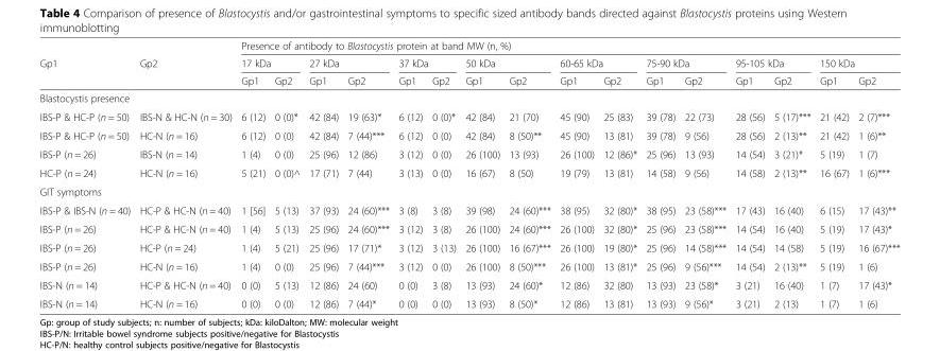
<table><thead><tr><td rowspan="3">Gp1</td><td rowspan="3">Gp2</td><td colspan="16">Presence of antibody to Blastocystis protein at band MW (n, %)</td></tr><tr><td colspan="2">17 kDa</td><td colspan="2">27 kDa</td><td colspan="2">37 kDa</td><td colspan="2">50 kDa</td><td colspan="2">60-65 kDa</td><td colspan="2">75-90 kDa</td><td colspan="2">95-105 kDa</td><td colspan="2">150 kDa</td></tr><tr><td>Gp1</td><td>Gp2</td><td>Gp1</td><td>Gp2</td><td>Gp1</td><td>Gp2</td><td>Gp1</td><td>Gp2</td><td>Gp1</td><td>Gp2</td><td>Gp1</td><td>Gp2</td><td>Gp1</td><td>Gp2</td><td>Gp1</td><td>Gp2</td></tr></thead><tbody><tr><td colspan="18">Blastocystis presence</td></tr><tr><td>IBS-P &amp; HC-P (n = 50)</td><td>IBS-N &amp; HC-N (n = 30)</td><td>6 (12)</td><td>0 (0)*</td><td>42 (84)</td><td>19 (63)*</td><td>6 (12)</td><td>0 (0)*</td><td>42 (84)</td><td>21 (70)</td><td>45 (90)</td><td>25 (83)</td><td>39 (78)</td><td>22 (73)</td><td>28 (56)</td><td>5 (17)***</td><td>21 (42)</td><td>2 (7)***</td></tr><tr><td>IBS-P &amp; HC-P (n = 50)</td><td>HC-N (n = 16)</td><td>6 (12)</td><td>0 (0)</td><td>42 (84)</td><td>7 (44)***</td><td>6 (12)</td><td>0 (0)</td><td>42 (84)</td><td>8 (50)**</td><td>45 (90)</td><td>13 (81)</td><td>39 (78)</td><td>9 (56)</td><td>28 (56)</td><td>2 (13)**</td><td>21 (42)</td><td>1 (6)**</td></tr><tr><td>IBS-P (n = 26)</td><td>IBS-N (n = 14)</td><td>1 (4)</td><td>0 (0)</td><td>25 (96)</td><td>12 (86)</td><td>3 (12)</td><td>0 (0)</td><td>26 (100)</td><td>13 (93)</td><td>26 (100)</td><td>12 (86)*</td><td>25 (96)</td><td>13 (93)</td><td>14 (54)</td><td>3 (21)*</td><td>5 (19)</td><td>1 (7)</td></tr><tr><td>HC-P (n = 24)</td><td>HC-N (n = 16)</td><td>5 (21)</td><td>0 (0)^</td><td>17 (71)</td><td>7 (44)</td><td>3 (13)</td><td>0 (0)</td><td>16 (67)</td><td>8 (50)</td><td>19 (79)</td><td>13 (81)</td><td>14 (58)</td><td>9 (56)</td><td>14 (58)</td><td>2 (13)**</td><td>16 (67)</td><td>1 (6)***</td></tr><tr><td colspan="18">GIT symptoms</td></tr><tr><td>IBS-P &amp; IBS-N (n = 40)</td><td>HC-P &amp; HC-N (n = 40)</td><td>1 [56]</td><td>5 (13)</td><td>37 (93)</td><td>24 (60)***</td><td>3 (8)</td><td>3 (8)</td><td>39 (98)</td><td>24 (60)***</td><td>38 (95)</td><td>32 (80)*</td><td>38 (95)</td><td>23 (58)***</td><td>17 (43)</td><td>16 (40)</td><td>6 (15)</td><td>17 (43)**</td></tr><tr><td>IBS-P (n = 26)</td><td>HC-P &amp; HC-N (n = 40)</td><td>1 (4)</td><td>5 (13)</td><td>25 (96)</td><td>24 (60)***</td><td>3 (12)</td><td>3 (8)</td><td>26 (100)</td><td>24 (60)***</td><td>26 (100)</td><td>32 (80)*</td><td>25 (96)</td><td>23 (58)***</td><td>14 (54)</td><td>16 (40)</td><td>5 (19)</td><td>17 (43)*</td></tr><tr><td>IBS-P (n = 26)</td><td>HC-P (n = 24)</td><td>1 (4)</td><td>5 (21)</td><td>25 (96)</td><td>17 (71)*</td><td>3 (12)</td><td>3 (13)</td><td>26 (100)</td><td>16 (67)***</td><td>26 (100)</td><td>19 (80)*</td><td>25 (96)</td><td>14 (58)***</td><td>14 (54)</td><td>14 (58)</td><td>5 (19)</td><td>16 (67)***</td></tr><tr><td>IBS-P (n = 26)</td><td>HC-N (n = 16)</td><td>1 (4)</td><td>0 (0)</td><td>25 (96)</td><td>7 (44)***</td><td>3 (12)</td><td>0 (0)</td><td>26 (100)</td><td>8 (50)***</td><td>26 (100)</td><td>13 (81)*</td><td>25 (96)</td><td>9 (56)***</td><td>14 (54)</td><td>2 (13)**</td><td>5 (19)</td><td>1 (6)</td></tr><tr><td>IBS-N (n = 14)</td><td>HC-P &amp; HC-N (n = 40)</td><td>0 (0)</td><td>5 (13)</td><td>12 (86)</td><td>24 (60)</td><td>0 (0)</td><td>3 (8)</td><td>13 (93)</td><td>24 (60)*</td><td>12 (86)</td><td>32 (80)</td><td>13 (93)</td><td>23 (58)*</td><td>3 (21)</td><td>16 (40)</td><td>1 (7)</td><td>17 (43)*</td></tr><tr><td>IBS-N (n = 14)</td><td>HC-N (n = 16)</td><td>0 (0)</td><td>0 (0)</td><td>12 (86)</td><td>7 (44)*</td><td>0 (0)</td><td>0 (0)</td><td>13 (93)</td><td>8 (50)*</td><td>12 (86)</td><td>13 (81)</td><td>13 (93)</td><td>9 (56)*</td><td>3 (21)</td><td>2 (13)</td><td>1 (7)</td><td>1 (6)</td></tr></tbody></table>